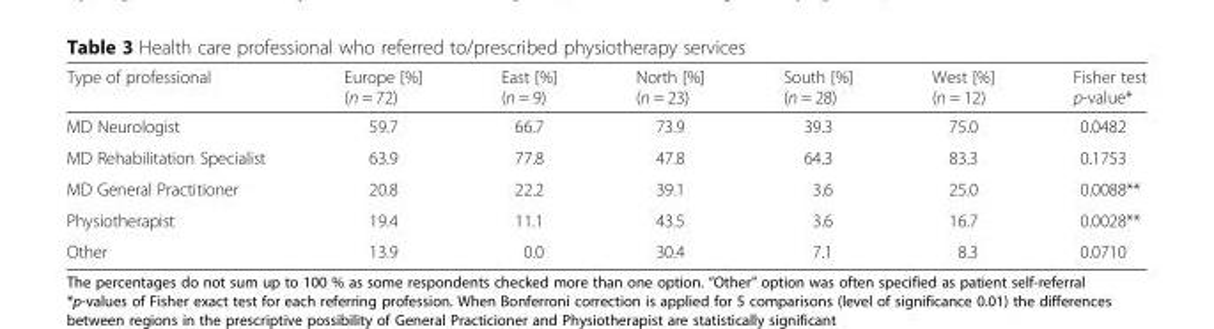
<table><thead><tr><td>Type of professional</td><td>Europe [%] (n = 72)</td><td>East [%] (n = 9)</td><td>North [%] (n = 23)</td><td>South [%] (n = 28)</td><td>West [%] (n = 12)</td><td>Fisher test p-value*</td></tr></thead><tbody><tr><td>MD Neurologist</td><td>59.7</td><td>66.7</td><td>73.9</td><td>39.3</td><td>75.0</td><td>0.0482</td></tr><tr><td>MD Rehabilitation Specialist</td><td>63.9</td><td>77.8</td><td>47.8</td><td>64.3</td><td>83.3</td><td>0.1753</td></tr><tr><td>MD General Practitioner</td><td>20.8</td><td>22.2</td><td>39.1</td><td>3.6</td><td>25.0</td><td>0.0088**</td></tr><tr><td>Physiotherapist</td><td>19.4</td><td>11.1</td><td>43.5</td><td>3.6</td><td>16.7</td><td>0.0028**</td></tr><tr><td>Other</td><td>13.9</td><td>0.0</td><td>30.4</td><td>7.1</td><td>8.3</td><td>0.0710</td></tr></tbody></table>